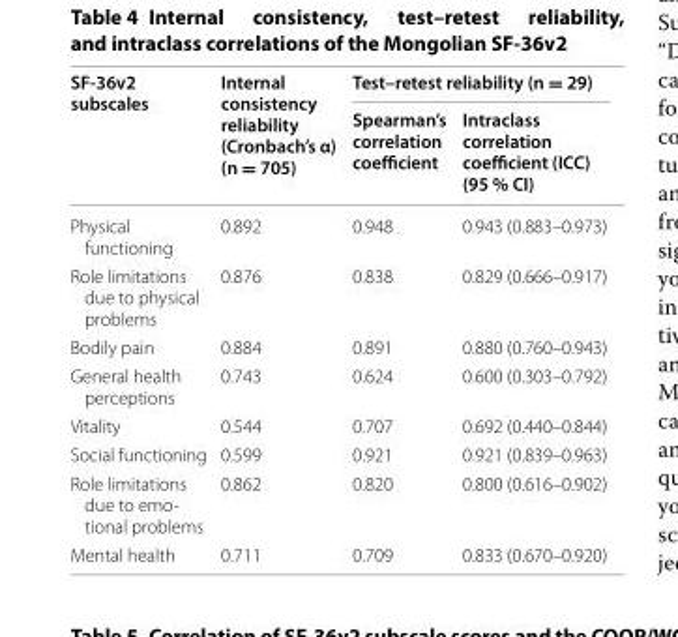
<table><thead><tr><td rowspan="2">SF‑36v2 subscales</td><td rowspan="2">Internal consistency reliability (Cronbach’s α) (n = 705)</td><td colspan="2">Test–retest reliability (n = 29)</td></tr><tr><td>Spearman’s correlation coefficient</td><td>Intraclass correlation coefficient (ICC) (95 % CI)</td></tr></thead><tbody><tr><td>Physical functioning</td><td>0.892</td><td>0.948</td><td>0.943 (0.883–0.973)</td></tr><tr><td>Role limitations due to physical problems</td><td>0.876</td><td>0.838</td><td>0.829 (0.666–0.917)</td></tr><tr><td>Bodily pain</td><td>0.884</td><td>0.891</td><td>0.880 (0.760–0.943)</td></tr><tr><td>General health perceptions</td><td>0.743</td><td>0.624</td><td>0.600 (0.303–0.792)</td></tr><tr><td>Vitality</td><td>0.544</td><td>0.707</td><td>0.692 (0.440–0.844)</td></tr><tr><td>Social functioning</td><td>0.599</td><td>0.921</td><td>0.921 (0.839–0.963)</td></tr><tr><td>Role limitations due to emo- tional problems</td><td>0.862</td><td>0.820</td><td>0.800 (0.616–0.902)</td></tr><tr><td>Mental health</td><td>0.711</td><td>0.709</td><td>0.833 (0.670–0.920)</td></tr></tbody></table>